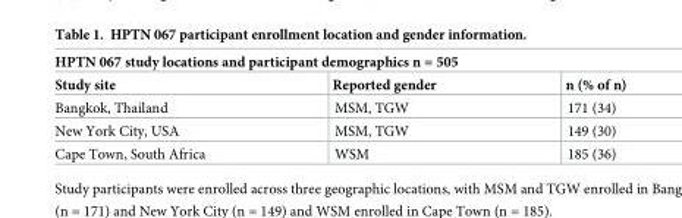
<table><thead><tr><td colspan="3">HPTN 067 study locations and participant demographics n = 505</td></tr><tr><td>Study site</td><td>Reported gender</td><td>n (% of n)</td></tr></thead><tbody><tr><td>Bangkok, Thailand</td><td>MSM, TGW</td><td>171 (34)</td></tr><tr><td>New York City, USA</td><td>MSM, TGW</td><td>149 (30)</td></tr><tr><td>Cape Town, South Africa</td><td>WSM</td><td>185 (36)</td></tr></tbody></table>